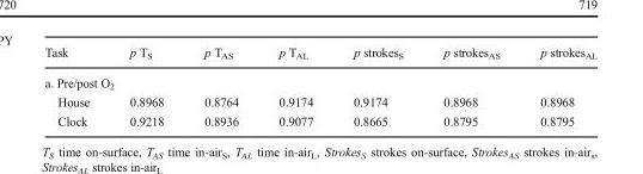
<table><thead><tr><td>Task</td><td>p T<sub>S</sub></td><td>p T<sub>AS</sub></td><td>p T<sub>AL</sub></td><td>p strokes<sub>S</sub></td><td>p strokes<sub>AS</sub></td><td>p strokes<sub>AL</sub></td></tr></thead><tbody><tr><td colspan="7">a. Pre/post O<sub>2</sub></td></tr><tr><td>House</td><td>0.8968</td><td>0.8764</td><td>0.9174</td><td>0.9174</td><td>0.8968</td><td>0.8968</td></tr><tr><td>Clock</td><td>0.9218</td><td>0.8936</td><td>0.9077</td><td>0.8665</td><td>0.8795</td><td>0.8795</td></tr></tbody></table>